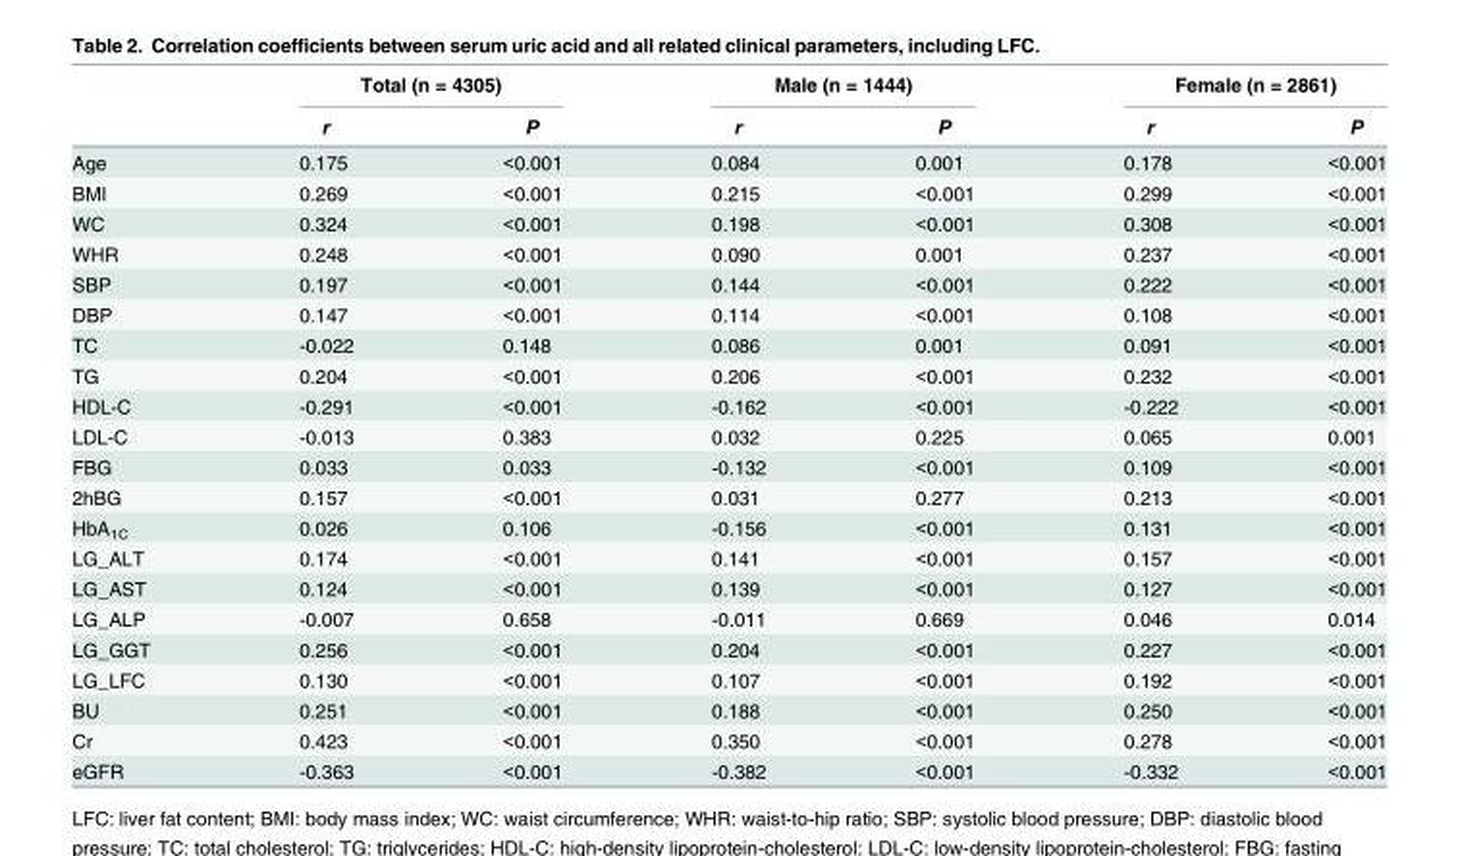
<table><thead><tr><td rowspan="2"></td><td colspan="2">Total (n = 4305)</td><td colspan="2">Male (n = 1444)</td><td colspan="2">Female (n = 2861)</td></tr><tr><td>r</td><td>P</td><td>r</td><td>P</td><td>r</td><td>P</td></tr></thead><tbody><tr><td>Age</td><td>0.175</td><td>&lt;0.001</td><td>0.084</td><td>0.001</td><td>0.178</td><td>&lt;0.001</td></tr><tr><td>BMI</td><td>0.269</td><td>&lt;0.001</td><td>0.215</td><td>&lt;0.001</td><td>0.299</td><td>&lt;0.001</td></tr><tr><td>WC</td><td>0.324</td><td>&lt;0.001</td><td>0.198</td><td>&lt;0.001</td><td>0.308</td><td>&lt;0.001</td></tr><tr><td>WHR</td><td>0.248</td><td>&lt;0.001</td><td>0.090</td><td>0.001</td><td>0.237</td><td>&lt;0.001</td></tr><tr><td>SBP</td><td>0.197</td><td>&lt;0.001</td><td>0.144</td><td>&lt;0.001</td><td>0.222</td><td>&lt;0.001</td></tr><tr><td>DBP</td><td>0.147</td><td>&lt;0.001</td><td>0.114</td><td>&lt;0.001</td><td>0.108</td><td>&lt;0.001</td></tr><tr><td>TC</td><td>-0.022</td><td>0.148</td><td>0.086</td><td>0.001</td><td>0.091</td><td>&lt;0.001</td></tr><tr><td>TG</td><td>0.204</td><td>&lt;0.001</td><td>0.206</td><td>&lt;0.001</td><td>0.232</td><td>&lt;0.001</td></tr><tr><td>HDL-C</td><td>-0.291</td><td>&lt;0.001</td><td>-0.162</td><td>&lt;0.001</td><td>-0.222</td><td>&lt;0.001</td></tr><tr><td>LDL-C</td><td>-0.013</td><td>0.383</td><td>0.032</td><td>0.225</td><td>0.065</td><td>0.001</td></tr><tr><td>FBG</td><td>0.033</td><td>0.033</td><td>-0.132</td><td>&lt;0.001</td><td>0.109</td><td>&lt;0.001</td></tr><tr><td>2hBG</td><td>0.157</td><td>&lt;0.001</td><td>0.031</td><td>0.277</td><td>0.213</td><td>&lt;0.001</td></tr><tr><td>HbA<sub>1C</sub></td><td>0.026</td><td>0.106</td><td>-0.156</td><td>&lt;0.001</td><td>0.131</td><td>&lt;0.001</td></tr><tr><td>LG_ALT</td><td>0.174</td><td>&lt;0.001</td><td>0.141</td><td>&lt;0.001</td><td>0.157</td><td>&lt;0.001</td></tr><tr><td>LG_AST</td><td>0.124</td><td>&lt;0.001</td><td>0.139</td><td>&lt;0.001</td><td>0.127</td><td>&lt;0.001</td></tr><tr><td>LG_ALP</td><td>-0.007</td><td>0.658</td><td>-0.011</td><td>0.669</td><td>0.046</td><td>0.014</td></tr><tr><td>LG_GGT</td><td>0.256</td><td>&lt;0.001</td><td>0.204</td><td>&lt;0.001</td><td>0.227</td><td>&lt;0.001</td></tr><tr><td>LG_LFC</td><td>0.130</td><td>&lt;0.001</td><td>0.107</td><td>&lt;0.001</td><td>0.192</td><td>&lt;0.001</td></tr><tr><td>BU</td><td>0.251</td><td>&lt;0.001</td><td>0.188</td><td>&lt;0.001</td><td>0.250</td><td>&lt;0.001</td></tr><tr><td>Cr</td><td>0.423</td><td>&lt;0.001</td><td>0.350</td><td>&lt;0.001</td><td>0.278</td><td>&lt;0.001</td></tr><tr><td>eGFR</td><td>-0.363</td><td>&lt;0.001</td><td>-0.382</td><td>&lt;0.001</td><td>-0.332</td><td>&lt;0.001</td></tr></tbody></table>